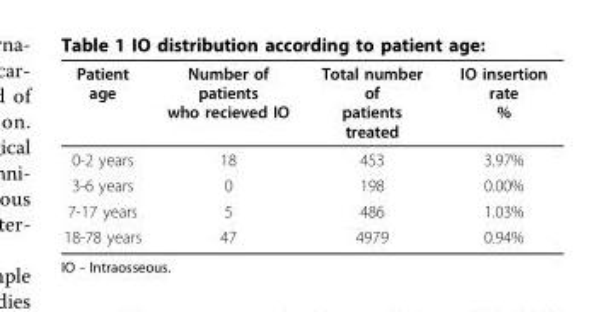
<table><thead><tr><td>Patient age</td><td>Number of patients who recieved IO</td><td>Total number of patients treated</td><td>IO insertion rate %</td></tr></thead><tbody><tr><td>0-2 years</td><td>18</td><td>453</td><td>3.97%</td></tr><tr><td>3-6 years</td><td>0</td><td>198</td><td>0.00%</td></tr><tr><td>7-17 years</td><td>5</td><td>486</td><td>1.03%</td></tr><tr><td>18-78 years</td><td>47</td><td>4979</td><td>0.94%</td></tr></tbody></table>